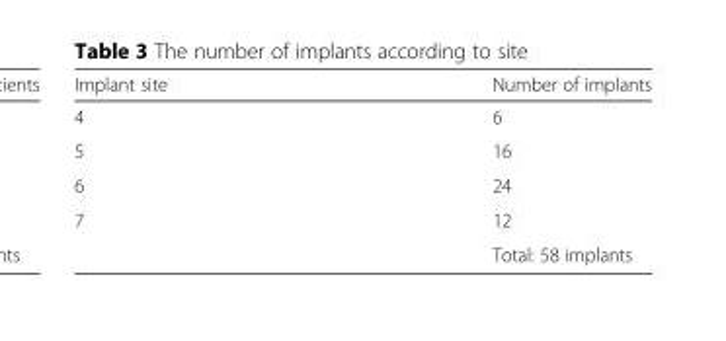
<table><thead><tr><td>Implant site</td><td>Number of implants</td></tr></thead><tbody><tr><td>4</td><td>6</td></tr><tr><td>5</td><td>16</td></tr><tr><td>6</td><td>24</td></tr><tr><td rowspan="2">7</td><td>12</td></tr><tr><td>Total: 58 implants</td></tr></tbody></table>